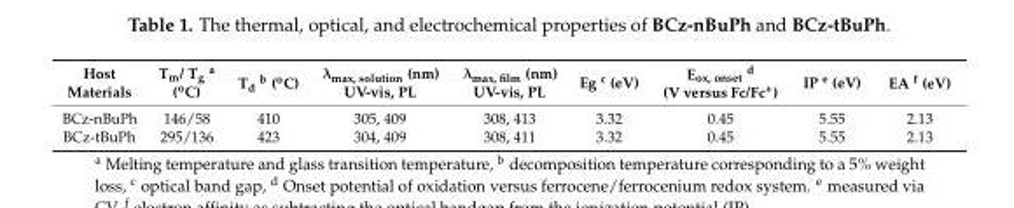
<table><thead><tr><td>Host Materials</td><td>Tm/ Tg a (oC)</td><td>Td b (oC)</td><td>λmax, solution (nm) UV-vis, PL</td><td>λmax, film (nm) UV-vis, PL</td><td>Eg c (eV)</td><td>Eox, onset d (V versus Fc/Fc+)</td><td>IP e (eV)</td><td>EA f (eV)</td></tr></thead><tbody><tr><td>BCz-nBuPh</td><td>146/58</td><td>410</td><td>305, 409</td><td>308, 413</td><td>3.32</td><td>0.45</td><td>5.55</td><td>2.13</td></tr><tr><td>BCz-tBuPh</td><td>295/136</td><td>423</td><td>304, 409</td><td>308, 411</td><td>3.32</td><td>0.45</td><td>5.55</td><td>2.13</td></tr></tbody></table>